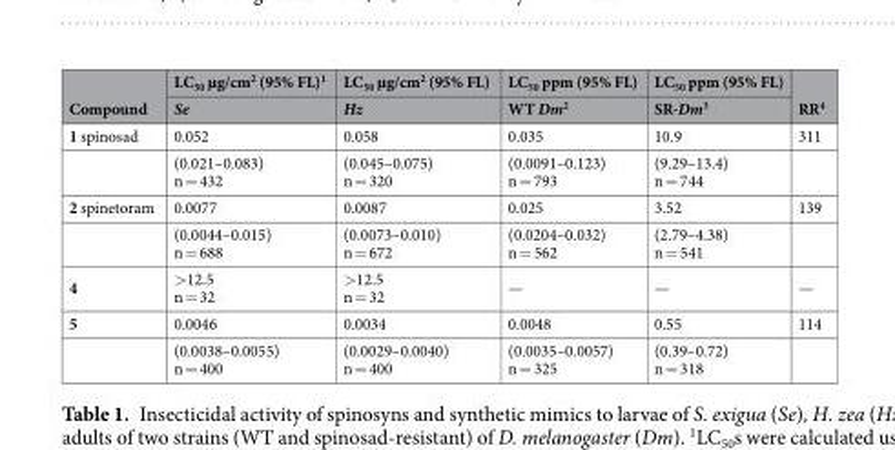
<table><thead><tr><td rowspan="2">Compound</td><td rowspan="2">LC<sub>50</sub> µg/cm<sup>2</sup> (95% FL)<sup>1</sup> Se</td><td rowspan="2">LC<sub>50</sub> µg/cm<sup>2</sup> (95% FL) Hz</td><td rowspan="2">LC<sub>50</sub> ppm (95% FL) WT Dm<sup>2</sup></td><td rowspan="2">LC<sub>50</sub> ppm (95% FL) SR-Dm<sup>3</sup></td><td rowspan="2">RR<sup>4</sup></td></tr><tr></tr></thead><tbody><tr><td rowspan="2">1 spinosad</td><td>0.052</td><td>0.058</td><td>0.035</td><td>10.9</td><td>311</td></tr><tr><td>(0.021–0.083) n = 432</td><td>(0.045–0.075) n = 320</td><td>(0.0091–0.123) n = 793</td><td>(9.29–13.4) n = 744</td><td></td></tr><tr><td rowspan="2">2 spinetoram</td><td>0.0077</td><td>0.0087</td><td>0.025</td><td>3.52</td><td>139</td></tr><tr><td>(0.0044–0.015) n = 688</td><td>(0.0073–0.010) n = 672</td><td>(0.0204–0.032) n = 562</td><td>(2.79–4.38) n = 541</td><td></td></tr><tr><td>4</td><td>&gt;12.5 n = 32</td><td>&gt;12.5 n = 32</td><td>—</td><td>—</td><td>—</td></tr><tr><td rowspan="2">5</td><td>0.0046</td><td>0.0034</td><td>0.0048</td><td>0.55</td><td>114</td></tr><tr><td>(0.0038–0.0055) n = 400</td><td>(0.0029–0.0040) n = 400</td><td>(0.0035–0.0057) n = 325</td><td>(0.39–0.72) n = 318</td><td></td></tr></tbody></table>